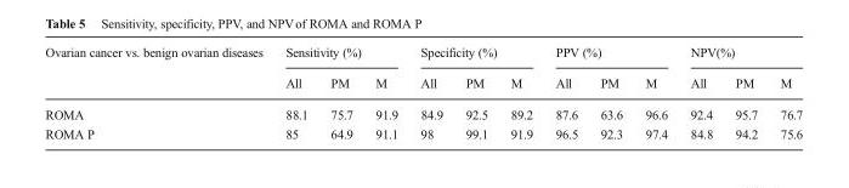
<table><thead><tr><td rowspan="2">Ovarian cancer vs. benign ovarian diseases</td><td colspan="3">Sensitivity (%)</td><td colspan="3">Specificity (%)</td><td colspan="3">PPV (%)</td><td colspan="3">NPV(%)</td></tr><tr><td>All</td><td>PM</td><td>M</td><td>All</td><td>PM</td><td>M</td><td>All</td><td>PM</td><td>M</td><td>All</td><td>PM</td><td>M</td></tr></thead><tbody><tr><td>ROMA</td><td>88.1</td><td>75.7</td><td>91.9</td><td>84.9</td><td>92.5</td><td>89.2</td><td>87.6</td><td>63.6</td><td>96.6</td><td>92.4</td><td>95.7</td><td>76.7</td></tr><tr><td>ROMA P</td><td>85</td><td>64.9</td><td>91.1</td><td>98</td><td>99.1</td><td>91.9</td><td>96.5</td><td>92.3</td><td>97.4</td><td>84.8</td><td>94.2</td><td>75.6</td></tr></tbody></table>